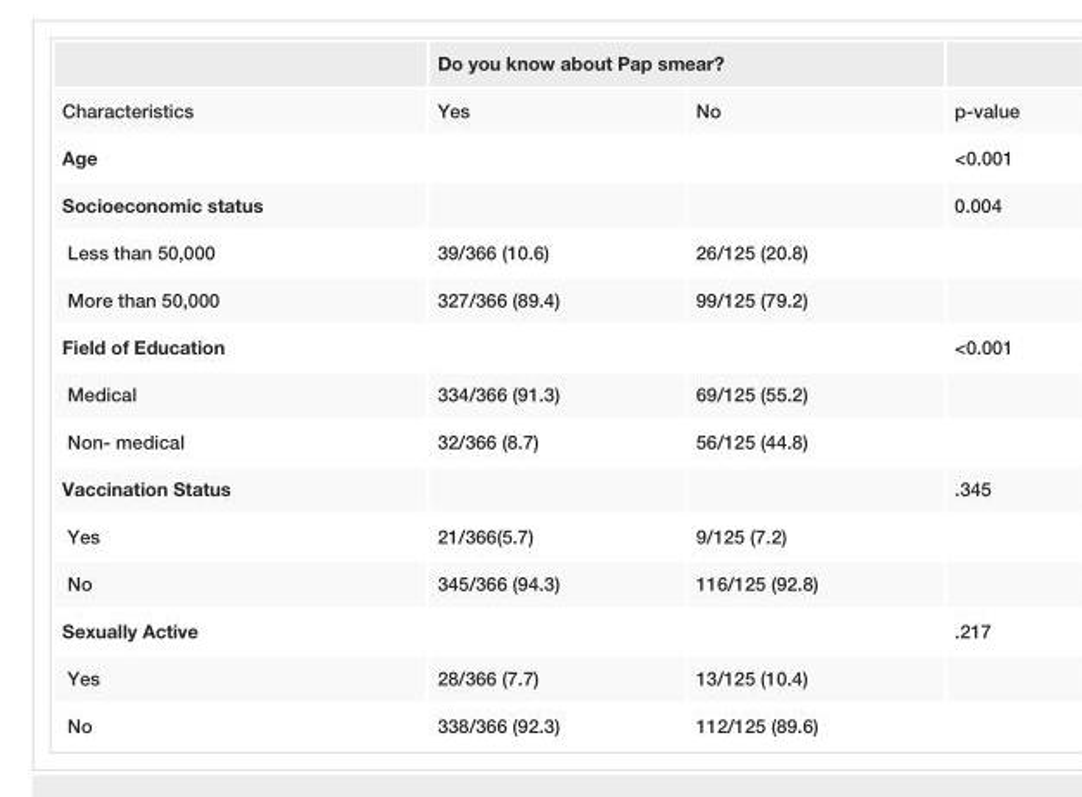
<table><thead><tr><td rowspan="2">Characteristics</td><td colspan="2">Do you know about Pap smear?</td><td rowspan="2">p-value</td></tr><tr><td>Yes</td><td>No</td></tr></thead><tbody><tr><td>Age</td><td></td><td></td><td>&lt;0.001</td></tr><tr><td>Socioeconomic status</td><td></td><td></td><td>0.004</td></tr><tr><td>Less than 50,000</td><td>39/366 (10.6)</td><td>26/125 (20.8)</td><td></td></tr><tr><td>More than 50,000</td><td>327/366 (89.4)</td><td>99/125 (79.2)</td><td></td></tr><tr><td>Field of Education</td><td></td><td></td><td>&lt;0.001</td></tr><tr><td>Medical</td><td>334/366 (91.3)</td><td>69/125 (55.2)</td><td></td></tr><tr><td>Non- medical</td><td>32/366 (8.7)</td><td>56/125 (44.8)</td><td></td></tr><tr><td>Vaccination Status</td><td></td><td></td><td>.345</td></tr><tr><td>Yes</td><td>21/366(5.7)</td><td>9/125 (7.2)</td><td></td></tr><tr><td>No</td><td>345/366 (94.3)</td><td>116/125 (92.8)</td><td></td></tr><tr><td>Sexually Active</td><td></td><td></td><td>.217</td></tr><tr><td>Yes</td><td>28/366 (7.7)</td><td>13/125 (10.4)</td><td></td></tr><tr><td>No</td><td>338/366 (92.3)</td><td>112/125 (89.6)</td><td></td></tr></tbody></table>